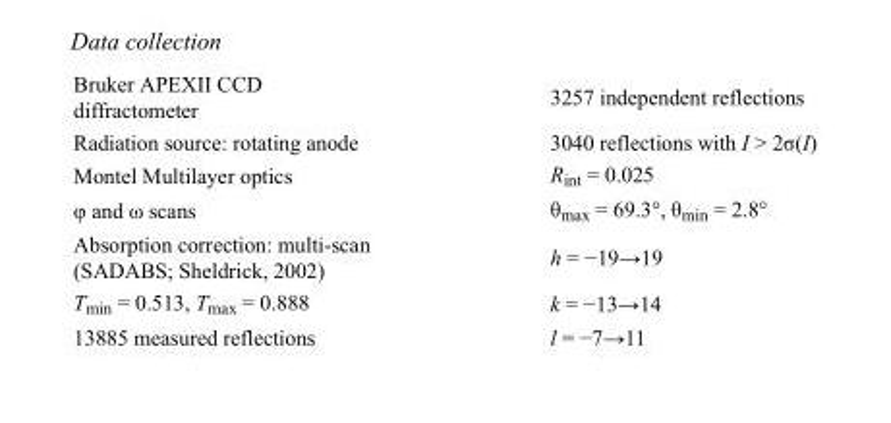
<table><tbody><tr><td>Bruker APEXII CCD diffractometer</td><td>3257 independent reflections</td></tr><tr><td>Radiation source: rotating anode</td><td>3040 reflections with I &gt; 2σ(I)</td></tr><tr><td>Montel Multilayer optics</td><td>R<sub>int</sub> = 0.025</td></tr><tr><td>φ and ω scans</td><td>θ<sub>max</sub> = 69.3°, θ<sub>min</sub> = 2.8°</td></tr><tr><td>Absorption correction: multi-scan (SADABS; Sheldrick, 2002)</td><td>h = −19→19</td></tr><tr><td>T<sub>min</sub> = 0.513, T<sub>max</sub> = 0.888</td><td>k = −13→14</td></tr><tr><td>13885 measured reflections</td><td>l = −7→11</td></tr></tbody></table>